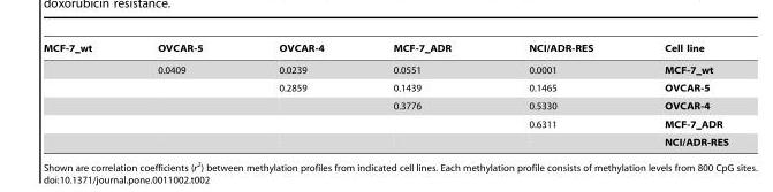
<table><thead><tr><td>MCF-7__wt</td><td>OVCAR-5</td><td>OVCAR-4</td><td>MCF-7__ADR</td><td>NCI/ADR-RES</td><td>Cell line</td></tr></thead><tbody><tr><td></td><td>0.0409</td><td>0.0239</td><td>0.0551</td><td>0.0001</td><td>MCF-7__wt</td></tr><tr><td></td><td></td><td>0.2859</td><td>0.1439</td><td>0.1465</td><td>OVCAR-5</td></tr><tr><td></td><td></td><td></td><td>0.3776</td><td>0.5330</td><td>OVCAR-4</td></tr><tr><td></td><td></td><td></td><td></td><td>0.6311</td><td>MCF-7__ADR</td></tr><tr><td></td><td></td><td></td><td></td><td></td><td>NCI/ADR-RES</td></tr></tbody></table>